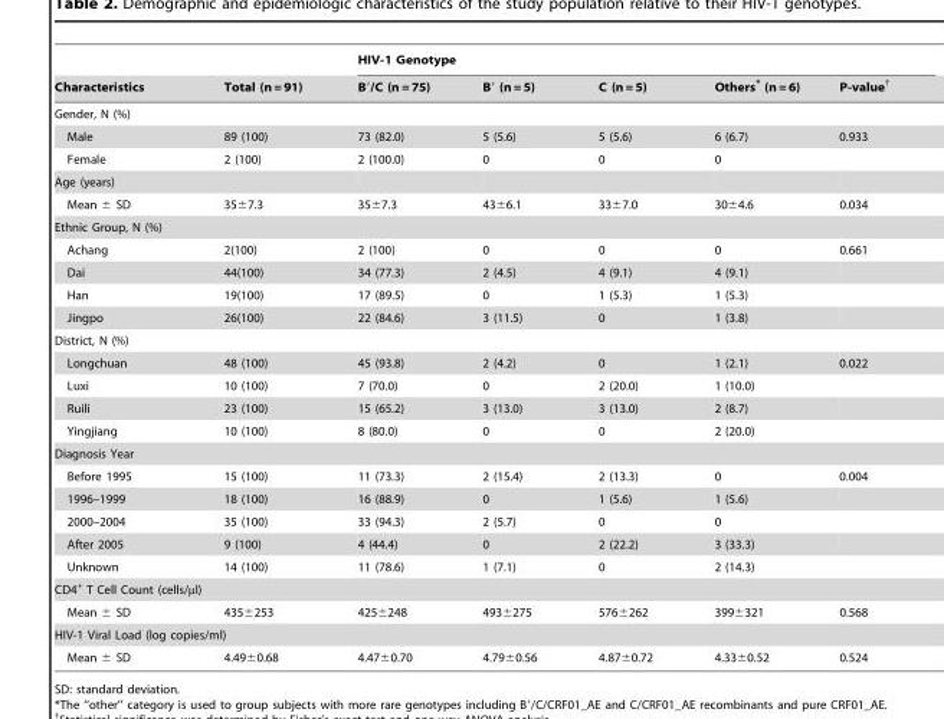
<table><thead><tr><td rowspan="2">Characteristics</td><td rowspan="2">Total (n = 91)</td><td colspan="4">HIV-1 Genotype</td><td rowspan="2">P-value†</td></tr><tr><td>B′/C (n = 75)</td><td>B′ (n = 5)</td><td>C (n = 5)</td><td>Others* (n = 6)</td></tr></thead><tbody><tr><td colspan="7">Gender, N (%)</td></tr><tr><td>Male</td><td>89 (100)</td><td>73 (82.0)</td><td>5 (5.6)</td><td>5 (5.6)</td><td>6 (6.7)</td><td>0.933</td></tr><tr><td>Female</td><td>2 (100)</td><td>2 (100.0)</td><td>0</td><td>0</td><td>0</td><td></td></tr><tr><td colspan="7">Age (years)</td></tr><tr><td>Mean ± SD</td><td>35±7.3</td><td>35±7.3</td><td>43±6.1</td><td>33±7.0</td><td>30±4.6</td><td>0.034</td></tr><tr><td colspan="7">Ethnic Group, N (%)</td></tr><tr><td>Achang</td><td>2(100)</td><td>2 (100)</td><td>0</td><td>0</td><td>0</td><td>0.661</td></tr><tr><td>Dai</td><td>44(100)</td><td>34 (77.3)</td><td>2 (4.5)</td><td>4 (9.1)</td><td>4 (9.1)</td><td></td></tr><tr><td>Han</td><td>19(100)</td><td>17 (89.5)</td><td>0</td><td>1 (5.3)</td><td>1 (5.3)</td><td></td></tr><tr><td>Jingpo</td><td>26(100)</td><td>22 (84.6)</td><td>3 (11.5)</td><td>0</td><td>1 (3.8)</td><td></td></tr><tr><td colspan="7">District, N (%)</td></tr><tr><td>Longchuan</td><td>48 (100)</td><td>45 (93.8)</td><td>2 (4.2)</td><td>0</td><td>1 (2.1)</td><td>0.022</td></tr><tr><td>Luxi</td><td>10 (100)</td><td>7 (70.0)</td><td>0</td><td>2 (20.0)</td><td>1 (10.0)</td><td></td></tr><tr><td>Ruili</td><td>23 (100)</td><td>15 (65.2)</td><td>3 (13.0)</td><td>3 (13.0)</td><td>2 (8.7)</td><td></td></tr><tr><td>Yingjiang</td><td>10 (100)</td><td>8 (80.0)</td><td>0</td><td>0</td><td>2 (20.0)</td><td></td></tr><tr><td colspan="7">Diagnosis Year</td></tr><tr><td>Before 1995</td><td>15 (100)</td><td>11 (73.3)</td><td>2 (15.4)</td><td>2 (13.3)</td><td>0</td><td>0.004</td></tr><tr><td>1996–1999</td><td>18 (100)</td><td>16 (88.9)</td><td>0</td><td>1 (5.6)</td><td>1 (5.6)</td><td></td></tr><tr><td>2000–2004</td><td>35 (100)</td><td>33 (94.3)</td><td>2 (5.7)</td><td>0</td><td>0</td><td></td></tr><tr><td>After 2005</td><td>9 (100)</td><td>4 (44.4)</td><td>0</td><td>2 (22.2)</td><td>3 (33.3)</td><td></td></tr><tr><td>Unknown</td><td>14 (100)</td><td>11 (78.6)</td><td>1 (7.1)</td><td>0</td><td>2 (14.3)</td><td></td></tr><tr><td colspan="7">CD4<sup>+</sup> T Cell Count (cells/µl)</td></tr><tr><td>Mean ± SD</td><td>435±253</td><td>425±248</td><td>493±275</td><td>576±262</td><td>399±321</td><td>0.568</td></tr><tr><td colspan="7">HIV-1 Viral Load (log copies/ml)</td></tr><tr><td>Mean ± SD</td><td>4.49±0.68</td><td>4.47±0.70</td><td>4.79±0.56</td><td>4.87±0.72</td><td>4.33±0.52</td><td>0.524</td></tr></tbody></table>